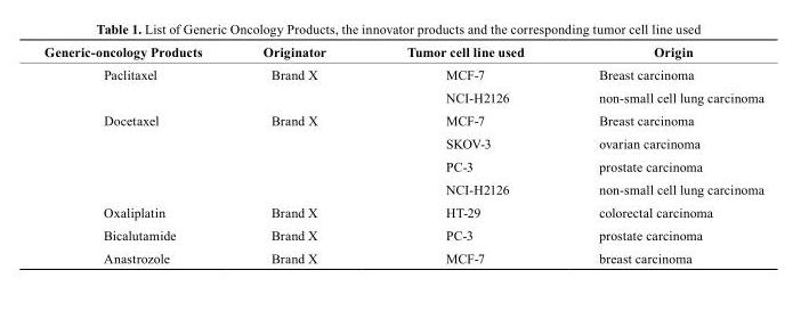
<table><thead><tr><td>Generic-oncology Products</td><td>Originator</td><td>tumor cell line used</td><td>Origin</td></tr></thead><tbody><tr><td rowspan="2">Paclitaxel</td><td>Brand X</td><td>MCF-7</td><td>Breast carcinoma</td></tr><tr><td></td><td>NCI-H2126</td><td>non-small cell lung carcinoma</td></tr><tr><td rowspan="4">Docetaxel</td><td>Brand X</td><td>MCF-7</td><td>Breast carcinoma</td></tr><tr><td></td><td>SKOV-3</td><td>ovarian carcinoma</td></tr><tr><td></td><td>PC-3</td><td>prostate carcinoma</td></tr><tr><td></td><td>NCI-H2126</td><td>non-small cell lung carcinoma</td></tr><tr><td>Oxaliplatin</td><td>Brand X</td><td>HT-29</td><td>colorectal carcinoma</td></tr><tr><td>Bicalutamide</td><td>Brand X</td><td>PC-3</td><td>prostate carcinoma</td></tr><tr><td>Anastrozole</td><td>Brand X</td><td>MCF-7</td><td>breast carcinoma</td></tr></tbody></table>